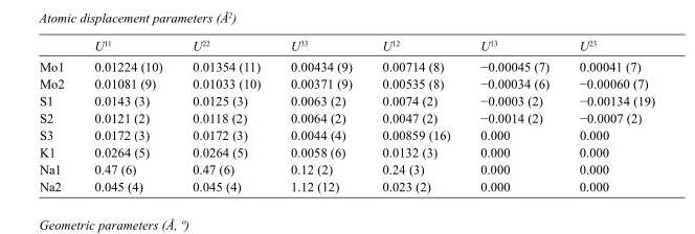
<table><thead><tr><td></td><td>U<sup>11</sup></td><td>U<sup>22</sup></td><td>U<sup>33</sup></td><td>U<sup>12</sup></td><td>U<sup>13</sup></td><td>U<sup>23</sup></td></tr></thead><tbody><tr><td>Mo1</td><td>0.01224 (10)</td><td>0.01354 (11)</td><td>0.00434 (9)</td><td>0.00714 (8)</td><td>−0.00045 (7)</td><td>0.00041 (7)</td></tr><tr><td>Mo2</td><td>0.01081 (9)</td><td>0.01033 (10)</td><td>0.00371 (9)</td><td>0.00535 (8)</td><td>−0.00034 (6)</td><td>−0.00060 (7)</td></tr><tr><td>S1</td><td>0.0143 (3)</td><td>0.0125 (3)</td><td>0.0063 (2)</td><td>0.0074 (2)</td><td>−0.0003 (2)</td><td>−0.00134 (19)</td></tr><tr><td>S2</td><td>0.0121 (2)</td><td>0.0118 (2)</td><td>0.0064 (2)</td><td>0.0047 (2)</td><td>−0.0014 (2)</td><td>−0.0007 (2)</td></tr><tr><td>S3</td><td>0.0172 (3)</td><td>0.0172 (3)</td><td>0.0044 (4)</td><td>0.00859 (16)</td><td>0.000</td><td>0.000</td></tr><tr><td>K1</td><td>0.0264 (5)</td><td>0.0264 (5)</td><td>0.0058 (6)</td><td>0.0132 (3)</td><td>0.000</td><td>0.000</td></tr><tr><td>Na1</td><td>0.47 (6)</td><td>0.47 (6)</td><td>0.12 (2)</td><td>0.24 (3)</td><td>0.000</td><td>0.000</td></tr><tr><td>Na2</td><td>0.045 (4)</td><td>0.045 (4)</td><td>1.12 (12)</td><td>0.023 (2)</td><td>0.000</td><td>0.000</td></tr></tbody></table>